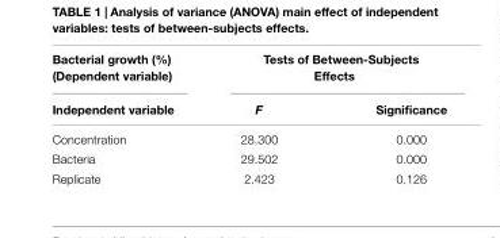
<table><thead><tr><td rowspan="2">Bacterial growth (%) (Dependent variable) Independent variable</td><td colspan="2">Tests of Between-Subjects Effects</td></tr><tr><td>F</td><td>Significance</td></tr></thead><tbody><tr><td>Concentration</td><td>28.300</td><td>0.000</td></tr><tr><td>Bacteria</td><td>29.502</td><td>0.000</td></tr><tr><td>Replicate</td><td>2.423</td><td>0.126</td></tr></tbody></table>